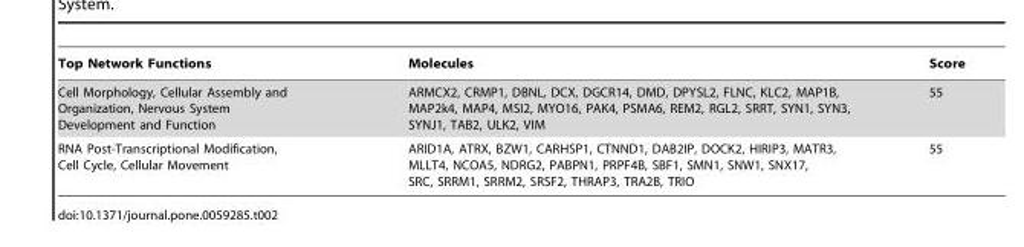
<table><thead><tr><td>Top Network Functions</td><td>Molecules</td><td>Score</td></tr></thead><tbody><tr><td>Cell Morphology, Cellular Assembly and Organization, Nervous System Development and Function</td><td>ARMCX2, CRMP1, DBNL, DCX, DGCR14, DMD, DPYSL2, FLNC, KLC2, MAP1B, MAP2k4, MAP4, MSI2, MYO16, PAK4, PSMA6, REM2, RGL2, SRRT, SYN1, SYN3, SYNJ1, TAB2, ULK2, VIM</td><td>55</td></tr><tr><td>RNA Post-Transcriptional Modification, Cell Cycle, Cellular Movement</td><td>ARID1A, ATRX, BZW1, CARHSP1, CTNND1, DAB2IP, DOCK2, HIRIP3, MATR3, MLLT4, NCOA5, NDRG2, PABPN1, PRPF4B, SBF1, SMN1, SNW1, SNX17, SRC, SRRM1, SRRM2, SRSF2, THRAP3, TRA2B, TRIO</td><td>55</td></tr></tbody></table>